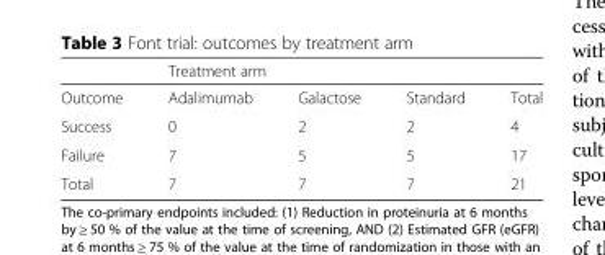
<table><thead><tr><td rowspan="2">Outcome</td><td colspan="3">Treatment arm</td><td rowspan="2">Total</td></tr><tr><td>Adalimumab</td><td>Galactose</td><td>Standard</td></tr></thead><tbody><tr><td>Success</td><td>0</td><td>2</td><td>2</td><td>4</td></tr><tr><td>Failure</td><td>7</td><td>5</td><td>5</td><td>17</td></tr><tr><td>Total</td><td>7</td><td>7</td><td>7</td><td>21</td></tr></tbody></table>